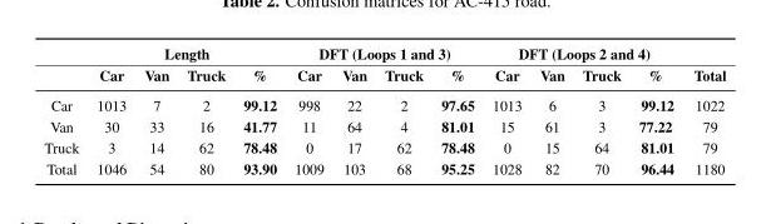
<table><thead><tr><td rowspan="2"></td><td colspan="4">Length</td><td colspan="4">DFT (Loops 1 and 3)</td><td colspan="4">DFT (Loops 2 and 4)</td><td rowspan="2">Total</td></tr><tr><td>Car</td><td>Van</td><td>Truck</td><td>%</td><td>Car</td><td>Van</td><td>Truck</td><td>%</td><td>Car</td><td>Van</td><td>Truck</td><td>%</td></tr></thead><tbody><tr><td>Car</td><td>1013</td><td>7</td><td>2</td><td>99.12</td><td>998</td><td>22</td><td>2</td><td>97.65</td><td>1013</td><td>6</td><td>3</td><td>99.12</td><td>1022</td></tr><tr><td>Van</td><td>30</td><td>33</td><td>16</td><td>41.77</td><td>11</td><td>64</td><td>4</td><td>81.01</td><td>15</td><td>61</td><td>3</td><td>77.22</td><td>79</td></tr><tr><td>Truck</td><td>3</td><td>14</td><td>62</td><td>78.48</td><td>0</td><td>17</td><td>62</td><td>78.48</td><td>0</td><td>15</td><td>64</td><td>81.01</td><td>79</td></tr><tr><td>Total</td><td>1046</td><td>54</td><td>80</td><td>93.90</td><td>1009</td><td>103</td><td>68</td><td>95.25</td><td>1028</td><td>82</td><td>70</td><td>96.44</td><td>1180</td></tr></tbody></table>